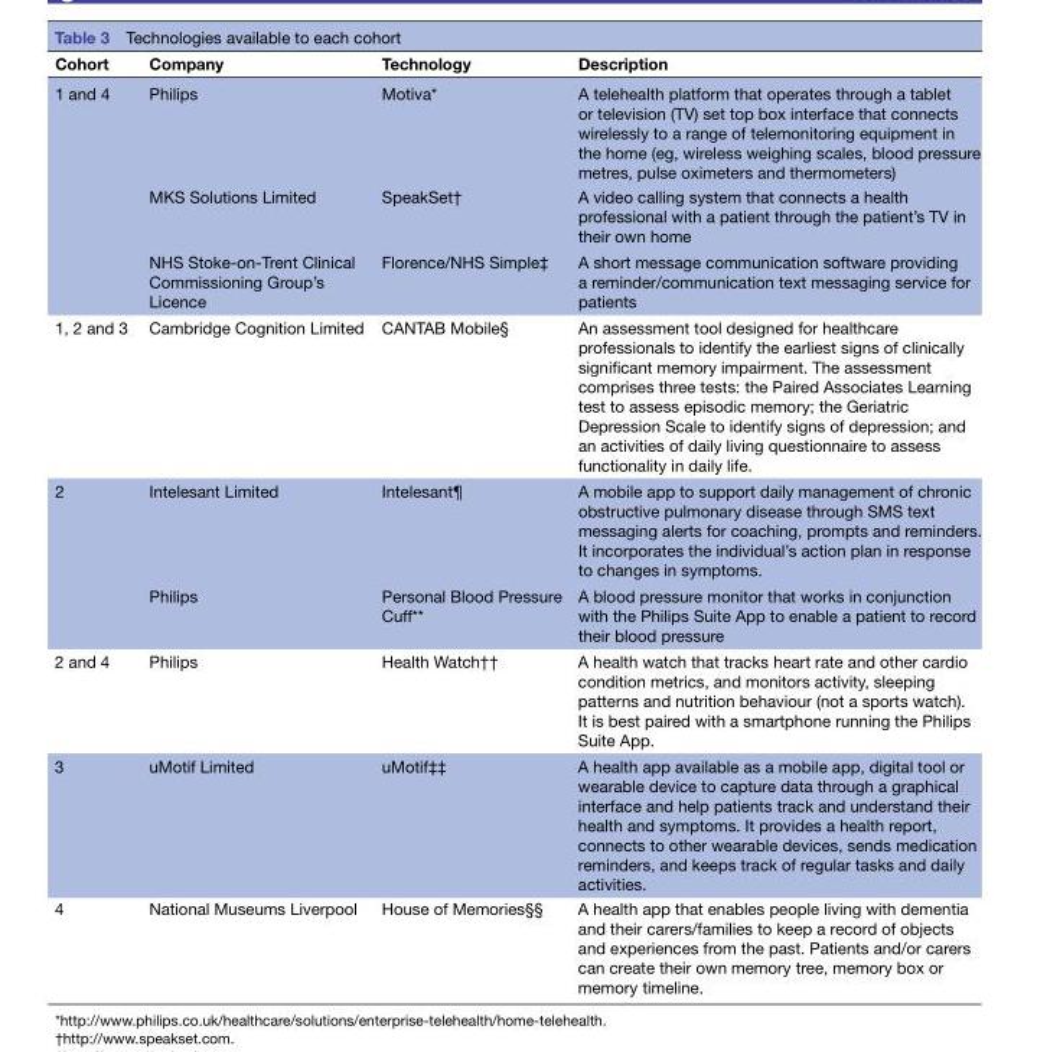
<table><thead><tr><td>Cohort</td><td>Company</td><td>Technology</td><td>Description</td></tr></thead><tbody><tr><td rowspan="3">1 and 4</td><td>Philips</td><td>Motiva*</td><td>A telehealth platform that operates through a tablet or television (TV) set top box interface that connects wirelessly to a range of telemonitoring equipment in the home (eg, wireless weighing scales, blood pressure metres, pulse oximeters and thermometers)</td></tr><tr><td>MKS Solutions Limited</td><td>SpeakSet†</td><td>A video calling system that connects a health professional with a patient through the patient’s TV in their own home</td></tr><tr><td>NHS Stoke-on-Trent Clinical Commissioning Group’s Licence</td><td>Florence/NHS Simple‡</td><td>A short message communication software providing a reminder/communication text messaging service for patients</td></tr><tr><td>1, 2 and 3</td><td>Cambridge Cognition Limited</td><td>CANTAB Mobile§</td><td>An assessment tool designed for healthcare professionals to identify the earliest signs of clinically significant memory impairment. The assessment comprises three tests: the Paired Associates Learning test to assess episodic memory; the Geriatric Depression Scale to identify signs of depression; and an activities of daily living questionnaire to assess functionality in daily life.</td></tr><tr><td rowspan="2">2</td><td>Intelesant Limited</td><td>Intelesant¶</td><td>A mobile app to support daily management of chronic obstructive pulmonary disease through SMS text messaging alerts for coaching, prompts and reminders. It incorporates the individual’s action plan in response to changes in symptoms.</td></tr><tr><td>Philips</td><td>Personal Blood Pressure Cuff**</td><td>A blood pressure monitor that works in conjunction with the Philips Suite App to enable a patient to record their blood pressure</td></tr><tr><td>2 and 4</td><td>Philips</td><td>Health Watch††</td><td>A health watch that tracks heart rate and other cardio condition metrics, and monitors activity, sleeping patterns and nutrition behaviour (not a sports watch). It is best paired with a smartphone running the Philips Suite App.</td></tr><tr><td>3</td><td>uMotif Limited</td><td>uMotif‡‡</td><td>A health app available as a mobile app, digital tool or wearable device to capture data through a graphical interface and help patients track and understand their health and symptoms. It provides a health report, connects to other wearable devices, sends medication reminders, and keeps track of regular tasks and daily activities.</td></tr><tr><td>4</td><td>National Museums Liverpool</td><td>House of Memories§§</td><td>A health app that enables people living with dementia and their carers/families to keep a record of objects and experiences from the past. Patients and/or carers can create their own memory tree, memory box or memory timeline.</td></tr></tbody></table>